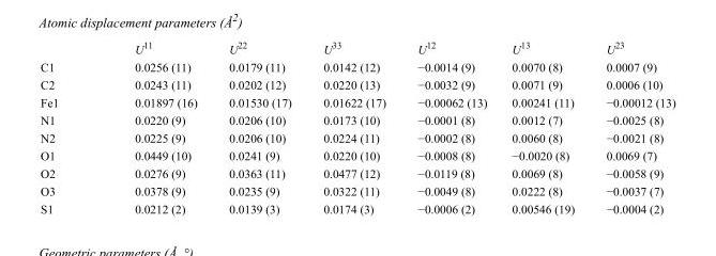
<table><thead><tr><td></td><td>U<sup>11</sup></td><td>U<sup>22</sup></td><td>U<sup>33</sup></td><td>U<sup>12</sup></td><td>U<sup>13</sup></td><td>U<sup>23</sup></td></tr></thead><tbody><tr><td>C1</td><td>0.0256 (11)</td><td>0.0179 (11)</td><td>0.0142 (12)</td><td>−0.0014 (9)</td><td>0.0070 (8)</td><td>0.0007 (9)</td></tr><tr><td>C2</td><td>0.0243 (11)</td><td>0.0202 (12)</td><td>0.0220 (13)</td><td>−0.0032 (9)</td><td>0.0071 (9)</td><td>0.0006 (10)</td></tr><tr><td>Fe1</td><td>0.01897 (16)</td><td>0.01530 (17)</td><td>0.01622 (17)</td><td>−0.00062 (13)</td><td>0.00241 (11)</td><td>−0.00012 (13)</td></tr><tr><td>N1</td><td>0.0220 (9)</td><td>0.0206 (10)</td><td>0.0173 (10)</td><td>−0.0001 (8)</td><td>0.0012 (7)</td><td>−0.0025 (8)</td></tr><tr><td>N2</td><td>0.0225 (9)</td><td>0.0206 (10)</td><td>0.0224 (11)</td><td>−0.0002 (8)</td><td>0.0060 (8)</td><td>−0.0021 (8)</td></tr><tr><td>O1</td><td>0.0449 (10)</td><td>0.0241 (9)</td><td>0.0220 (10)</td><td>−0.0008 (8)</td><td>−0.0020 (8)</td><td>0.0069 (7)</td></tr><tr><td>O2</td><td>0.0276 (9)</td><td>0.0363 (11)</td><td>0.0477 (12)</td><td>−0.0119 (8)</td><td>0.0069 (8)</td><td>−0.0058 (9)</td></tr><tr><td>O3</td><td>0.0378 (9)</td><td>0.0235 (9)</td><td>0.0322 (11)</td><td>−0.0049 (8)</td><td>0.0222 (8)</td><td>−0.0037 (7)</td></tr><tr><td>S1</td><td>0.0212 (2)</td><td>0.0139 (3)</td><td>0.0174 (3)</td><td>−0.0006 (2)</td><td>0.00546 (19)</td><td>−0.0004 (2)</td></tr></tbody></table>